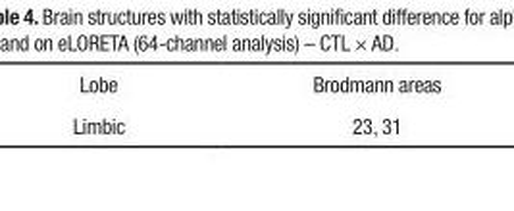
<table><tbody><tr><td>Lobe</td><td>Brodmann areas</td></tr><tr><td>Limbic</td><td>23, 31</td></tr></tbody></table>